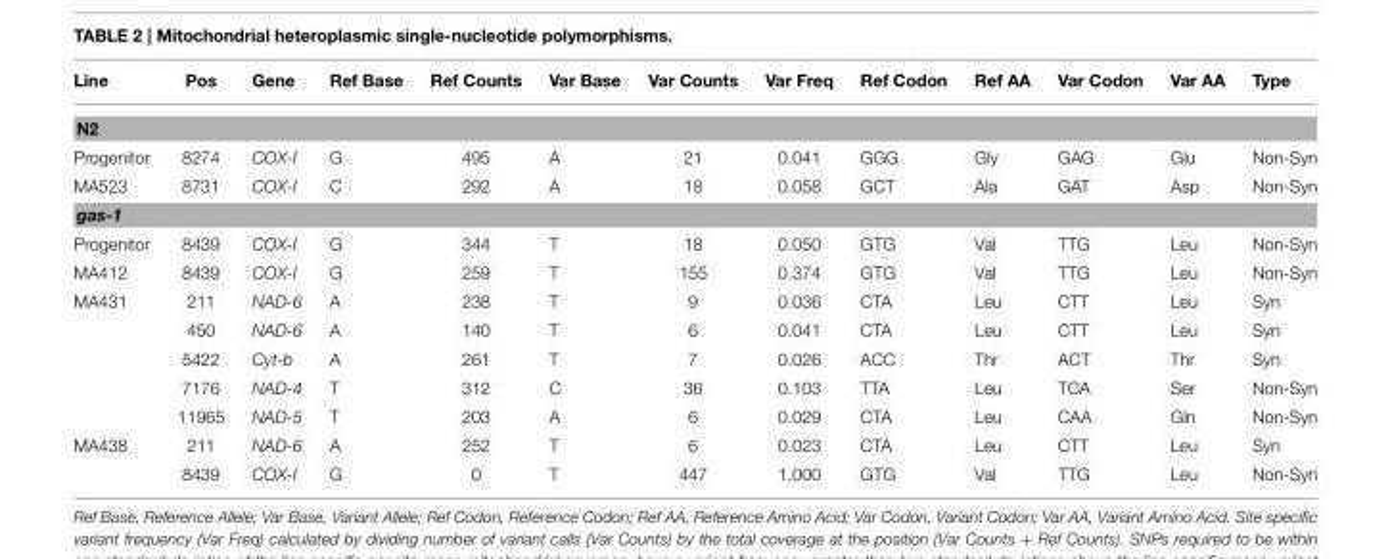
<table><thead><tr><td>Line</td><td>Pos</td><td>Gene</td><td>Ref Base</td><td>Ref Counts</td><td>Var Base</td><td>Var Counts</td><td>Var Freq</td><td>Ref Codon</td><td>Ref AA</td><td>Var Codon</td><td>Var AA</td><td>Type</td></tr></thead><tbody><tr><td colspan="13">N2</td></tr><tr><td>Progenitor</td><td>8274</td><td>COX-I</td><td>G</td><td>495</td><td>A</td><td>21</td><td>0.041</td><td>GGG</td><td>Gly</td><td>GAG</td><td>Glu</td><td>Non-Syn</td></tr><tr><td>MA523</td><td>8731</td><td>COX-I</td><td>C</td><td>292</td><td>A</td><td>18</td><td>0.058</td><td>GCT</td><td>Ala</td><td>GAT</td><td>Asp</td><td>Non-Syn</td></tr><tr><td colspan="13">gas-1</td></tr><tr><td>Progenitor</td><td>8439</td><td>COX-I</td><td>G</td><td>344</td><td>T</td><td>18</td><td>0.050</td><td>GTG</td><td>Val</td><td>TTG</td><td>Leu</td><td>Non-Syn</td></tr><tr><td>MA412</td><td>8439</td><td>COX-I</td><td>G</td><td>259</td><td>T</td><td>155</td><td>0.374</td><td>GTG</td><td>Val</td><td>TTG</td><td>Leu</td><td>Non-Syn</td></tr><tr><td rowspan="5">MA431</td><td>211</td><td>NAD-6</td><td>A</td><td>238</td><td>T</td><td>9</td><td>0.036</td><td>CTA</td><td>Leu</td><td>CTT</td><td>Leu</td><td>Syn</td></tr><tr><td>450</td><td>NAD-6</td><td>A</td><td>140</td><td>T</td><td>6</td><td>0.041</td><td>CTA</td><td>Leu</td><td>CTT</td><td>Leu</td><td>Syn</td></tr><tr><td>5422</td><td>Cyt-b</td><td>A</td><td>261</td><td>T</td><td>7</td><td>0.026</td><td>ACC</td><td>Thr</td><td>ACT</td><td>Thr</td><td>Syn</td></tr><tr><td>7176</td><td>NAD-4</td><td>T</td><td>312</td><td>C</td><td>36</td><td>0.103</td><td>TTA</td><td>Leu</td><td>TCA</td><td>Ser</td><td>Non-Syn</td></tr><tr><td>11965</td><td>NAD-5</td><td>T</td><td>203</td><td>A</td><td>6</td><td>0.029</td><td>CTA</td><td>Leu</td><td>CAA</td><td>Gln</td><td>Non-Syn</td></tr><tr><td rowspan="2">MA438</td><td>211</td><td>NAD-6</td><td>A</td><td>252</td><td>T</td><td>6</td><td>0.023</td><td>CTA</td><td>Leu</td><td>CTT</td><td>Leu</td><td>Syn</td></tr><tr><td>8439</td><td>COX-I</td><td>G</td><td>0</td><td>T</td><td>447</td><td>1.000</td><td>GTG</td><td>Val</td><td>TTG</td><td>Leu</td><td>Non-Syn</td></tr></tbody></table>